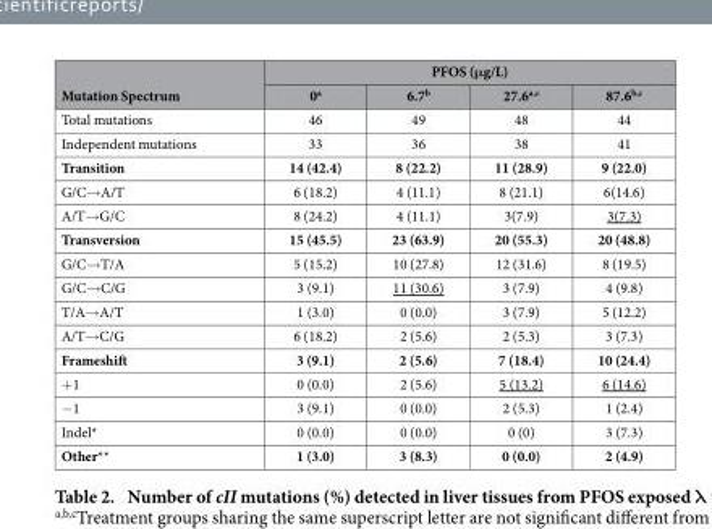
<table><thead><tr><td rowspan="2">Mutation Spectrum</td><td colspan="4">PFOS (μg/L)</td></tr><tr><td>0<sup>a</sup></td><td>6.7<sup>b</sup></td><td>27.6<sup>a,c</sup></td><td>87.6<sup>b,c</sup></td></tr></thead><tbody><tr><td>Total mutations</td><td>46</td><td>49</td><td>48</td><td>44</td></tr><tr><td>Independent mutations</td><td>33</td><td>36</td><td>38</td><td>41</td></tr><tr><td>Transition</td><td>14 (42.4)</td><td>8 (22.2)</td><td>11 (28.9)</td><td>9 (22.0)</td></tr><tr><td>G/C→ A/T</td><td>6 (18.2)</td><td>4 (11.1)</td><td>8 (21.1)</td><td>6(14.6)</td></tr><tr><td>A/T→ G/C</td><td>8 (24.2)</td><td>4 (11.1)</td><td>3(7.9)</td><td>3(7.3)</td></tr><tr><td>Transversion</td><td>15 (45.5)</td><td>23 (63.9)</td><td>20 (55.3)</td><td>20 (48.8)</td></tr><tr><td>G/C→ T/A</td><td>5 (15.2)</td><td>10 (27.8)</td><td>12 (31.6)</td><td>8 (19.5)</td></tr><tr><td>G/C→ C/G</td><td>3 (9.1)</td><td>11 (30.6)</td><td>3 (7.9)</td><td>4 (9.8)</td></tr><tr><td>T/A→ A/T</td><td>1 (3.0)</td><td>0 (0.0)</td><td>3 (7.9)</td><td>5 (12.2)</td></tr><tr><td>A/T→ C/G</td><td>6 (18.2)</td><td>2 (5.6)</td><td>2 (5.3)</td><td>3 (7.3)</td></tr><tr><td>Frameshift</td><td>3 (9.1)</td><td>2 (5.6)</td><td>7 (18.4)</td><td>10 (24.4)</td></tr><tr><td>+ 1</td><td>0 (0.0)</td><td>2 (5.6)</td><td>5 (13.2)</td><td>6 (14.6)</td></tr><tr><td>− 1</td><td>3 (9.1)</td><td>0 (0.0)</td><td>2 (5.3)</td><td>1 (2.4)</td></tr><tr><td>Indel*</td><td>0 (0.0)</td><td>0 (0.0)</td><td>0 (0)</td><td>3 (7.3)</td></tr><tr><td>Other**</td><td>1 (3.0)</td><td>3 (8.3)</td><td>0 (0.0)</td><td>2 (4.9)</td></tr></tbody></table>